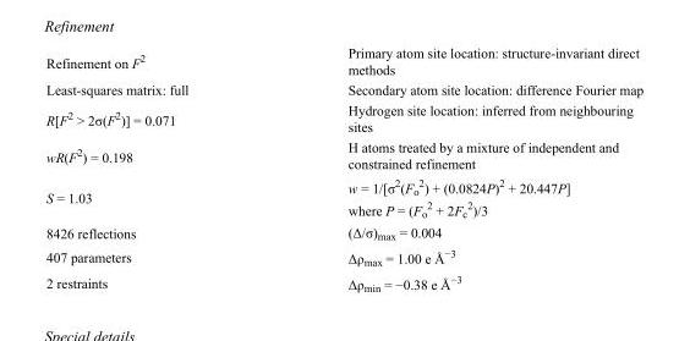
<table><tbody><tr><td>Refinement on F<sup>2</sup></td><td>Primary atom site location: structure-invariant direct methods</td></tr><tr><td>Least-squares matrix: full</td><td>Secondary atom site location: difference Fourier map</td></tr><tr><td>R[F<sup>2</sup> &gt; 2σ(F<sup>2</sup>)] = 0.071</td><td>Hydrogen site location: inferred from neighbouring sites</td></tr><tr><td>wR(F<sup>2</sup>) = 0.198</td><td>H atoms treated by a mixture of independent and constrained refinement</td></tr><tr><td>S = 1.03</td><td>w = 1/[σ<sup>2</sup>(F<sub>o</sub> <sup>2</sup>) + (0.0824P)<sup>2</sup> + 20.447P] where P = (F<sub>o</sub> <sup>2</sup> + 2F<sub>c</sub> <sup>2</sup>)/3</td></tr><tr><td>8426 reflections</td><td>(Δ/σ)<sub>max</sub> = 0.004</td></tr><tr><td>407 parameters</td><td>Δρ<sub>max</sub> = 1.00 e Å<sup>−3</sup></td></tr><tr><td>2 restraints</td><td>Δρ<sub>min</sub> = −0.38 e Å<sup>−3</sup></td></tr></tbody></table>